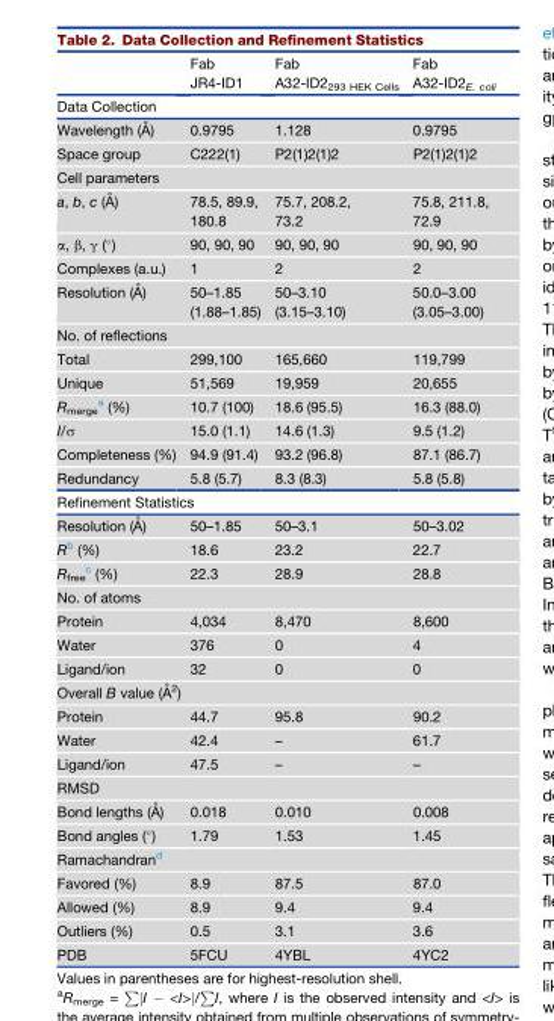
<table><thead><tr><td></td><td>Fab JR4-ID1</td><td>Fab A32-ID2<sub>293 HEK Cells</sub></td><td>Fab A32-ID2<sub>E. coli</sub></td></tr></thead><tbody><tr><td colspan="4">Data Collection</td></tr><tr><td>Wavelength (A˚ )</td><td>0.9795</td><td>1.128</td><td>0.9795</td></tr><tr><td>Space group</td><td>C222(1)</td><td>P2(1)2(1)2</td><td>P2(1)2(1)2</td></tr><tr><td colspan="4">Cell parameters</td></tr><tr><td>a, b, c (A˚ )</td><td>78.5, 89.9, 180.8</td><td>75.7, 208.2, 73.2</td><td>75.8, 211.8, 72.9</td></tr><tr><td>α, β, γ (°)</td><td>90, 90, 90</td><td>90, 90, 90</td><td>90, 90, 90</td></tr><tr><td>Complexes (a.u.)</td><td>1</td><td>2</td><td>2</td></tr><tr><td>Resolution (A˚ )</td><td>50–1.85 (1.88–1.85)</td><td>50–3.10 (3.15–3.10)</td><td>50.0–3.00 (3.05–3.00)</td></tr><tr><td colspan="4">No. of reflections</td></tr><tr><td>Total</td><td>299,100</td><td>165,660</td><td>119,799</td></tr><tr><td>Unique</td><td>51,569</td><td>19,959</td><td>20,655</td></tr><tr><td>R<sub>merge</sub> <sup>a</sup> (%)</td><td>10.7 (100)</td><td>18.6 (95.5)</td><td>16.3 (88.0)</td></tr><tr><td>I/σ</td><td>15.0 (1.1)</td><td>14.6 (1.3)</td><td>9.5 (1.2)</td></tr><tr><td>Completeness (%)</td><td>94.9 (91.4)</td><td>93.2 (96.8)</td><td>87.1 (86.7)</td></tr><tr><td>Redundancy</td><td>5.8 (5.7)</td><td>8.3 (8.3)</td><td>5.8 (5.8)</td></tr><tr><td colspan="4">Refinement Statistics</td></tr><tr><td>Resolution (A˚ )</td><td>50–1.85</td><td>50–3.1</td><td>50–3.02</td></tr><tr><td>R<sup>b</sup> (%)</td><td>18.6</td><td>23.2</td><td>22.7</td></tr><tr><td>R<sub>free</sub> <sup>c</sup> (%)</td><td>22.3</td><td>28.9</td><td>28.8</td></tr><tr><td colspan="4">No. of atoms</td></tr><tr><td>Protein</td><td>4,034</td><td>8,470</td><td>8,600</td></tr><tr><td>Water</td><td>376</td><td>0</td><td>4</td></tr><tr><td>Ligand/ion</td><td>32</td><td>0</td><td>0</td></tr><tr><td colspan="4">Overall B value (A˚ 2)</td></tr><tr><td>Protein</td><td>44.7</td><td>95.8</td><td>90.2</td></tr><tr><td>Water</td><td>42.4</td><td>–</td><td>61.7</td></tr><tr><td>Ligand/ion</td><td>47.5</td><td>–</td><td>–</td></tr><tr><td colspan="4">RMSD</td></tr><tr><td>Bond lengths (A˚ )</td><td>0.018</td><td>0.010</td><td>0.008</td></tr><tr><td>Bond angles (°)</td><td>1.79</td><td>1.53</td><td>1.45</td></tr><tr><td colspan="4">Ramachandran<sup>d</sup></td></tr><tr><td>Favored (%)</td><td>8.9</td><td>87.5</td><td>87.0</td></tr><tr><td>Allowed (%)</td><td>8.9</td><td>9.4</td><td>9.4</td></tr><tr><td>Outliers (%)</td><td>0.5</td><td>3.1</td><td>3.6</td></tr><tr><td>PDB</td><td>5FCU</td><td>4YBL</td><td>4YC2</td></tr></tbody></table>